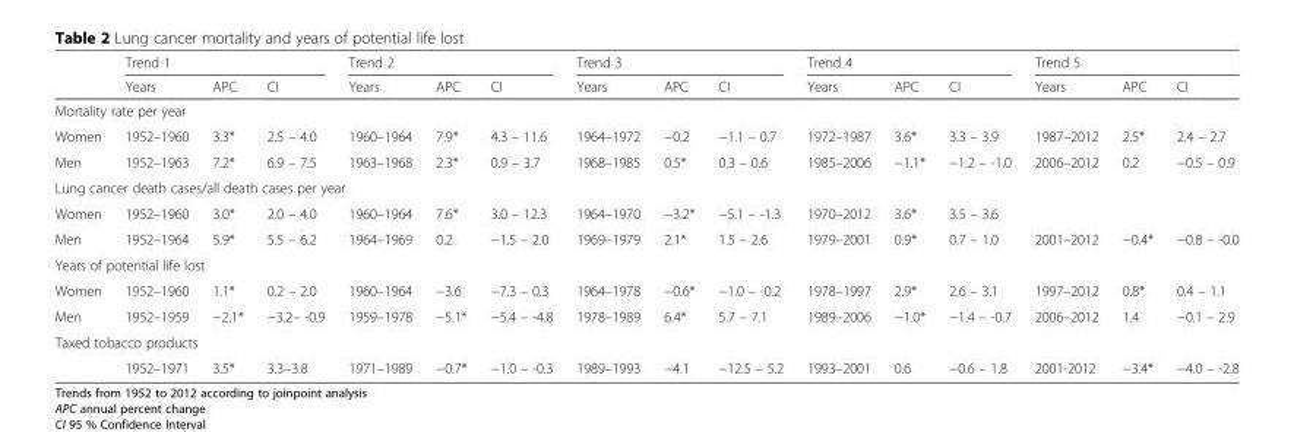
<table><thead><tr><td rowspan="2"></td><td colspan="3">Trend 1</td><td colspan="3">Trend 2</td><td colspan="3">Trend 3</td><td colspan="3">Trend 4</td><td colspan="3">Trend 5</td></tr><tr><td>Years</td><td>APC</td><td>CI</td><td>Years</td><td>APC</td><td>CI</td><td>Years</td><td>APC</td><td>CI</td><td>Years</td><td>APC</td><td>CI</td><td>Years</td><td>APC</td><td>CI</td></tr></thead><tbody><tr><td colspan="16">Mortality rate per year</td></tr><tr><td>Women</td><td>1952–1960</td><td>3.3*</td><td>2.5 – 4.0</td><td>1960–1964</td><td>7.9*</td><td>4.3 – 11.6</td><td>1964–1972</td><td>−0.2</td><td>−1.1 – 0.7</td><td>1972–1987</td><td>3.6*</td><td>3.3 – 3.9</td><td>1987–2012</td><td>2.5*</td><td>2.4 – 2.7</td></tr><tr><td>Men</td><td>1952–1963</td><td>7.2*</td><td>6.9 – 7.5</td><td>1963–1968</td><td>2.3*</td><td>0.9 – 3.7</td><td>1968–1985</td><td>0.5*</td><td>0.3 – 0.6</td><td>1985–2006</td><td>−1.1*</td><td>−1.2 – -1.0</td><td>2006–2012</td><td>0.2</td><td>−0.5 – 0.9</td></tr><tr><td colspan="16">Lung cancer death cases/all death cases per year</td></tr><tr><td>Women</td><td>1952–1960</td><td>3.0*</td><td>2.0 – 4.0</td><td>1960–1964</td><td>7.6*</td><td>3.0 – 12.3</td><td>1964–1970</td><td>−3.2*</td><td>−5.1 – -1.3</td><td>1970–2012</td><td>3.6*</td><td>3.5 – 3.6</td><td></td><td></td><td></td></tr><tr><td>Men</td><td>1952–1964</td><td>5.9*</td><td>5.5 – 6.2</td><td>1964–1969</td><td>0.2</td><td>−1.5 – 2.0</td><td>1969–1979</td><td>2.1*</td><td>1.5 – 2.6</td><td>1979–2001</td><td>0.9*</td><td>0.7 – 1.0</td><td>2001–2012</td><td>−0.4*</td><td>−0.8 – -0.0</td></tr><tr><td colspan="16">Years of potential life lost</td></tr><tr><td>Women</td><td>1952–1960</td><td>1.1*</td><td>0.2 – 2.0</td><td>1960–1964</td><td>−3.6</td><td>−7.3 – 0.3</td><td>1964–1978</td><td>−0.6*</td><td>−1.0 – -0.2</td><td>1978–1997</td><td>2.9*</td><td>2.6 – 3.1</td><td>1997–2012</td><td>0.8*</td><td>0.4 – 1.1</td></tr><tr><td>Men</td><td>1952–1959</td><td>−2.1*</td><td>−3.2– -0.9</td><td>1959–1978</td><td>−5.1*</td><td>−5.4 – -4.8</td><td>1978–1989</td><td>6.4*</td><td>5.7 – 7.1</td><td>1989–2006</td><td>−1.0*</td><td>−1.4 – -0.7</td><td>2006–2012</td><td>1.4</td><td>−0.1 – 2.9</td></tr><tr><td colspan="16">Taxed tobacco products</td></tr><tr><td></td><td>1952–1971</td><td>3.5*</td><td>3.3–3.8</td><td>1971–1989</td><td>−0.7*</td><td>−1.0 – -0.3</td><td>1989–1993</td><td>−4.1</td><td>−12.5 – 5.2</td><td>1993–2001</td><td>0.6</td><td>−0.6 – 1.8</td><td>2001-2012</td><td>−3.4*</td><td>−4.0 – -2.8</td></tr></tbody></table>